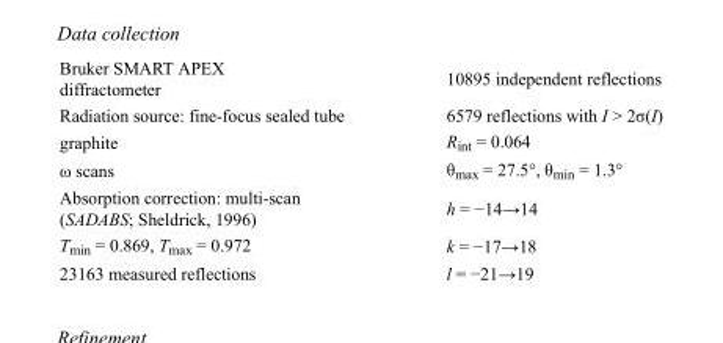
<table><tbody><tr><td>Bruker SMART APEX diffractometer</td><td>10895 independent reflections</td></tr><tr><td>Radiation source: fine-focus sealed tube</td><td>6579 reflections with I &gt; 2σ(I)</td></tr><tr><td>graphite</td><td>R<sub>int</sub> = 0.064</td></tr><tr><td>ω scans</td><td>θ<sub>max</sub> = 27.5°, θ<sub>min</sub> = 1.3°</td></tr><tr><td>Absorption correction: multi-scan (SADABS; Sheldrick, 1996)</td><td>h = −14→14</td></tr><tr><td>T<sub>min</sub> = 0.869, T<sub>max</sub> = 0.972</td><td>k = −17→18</td></tr><tr><td>23163 measured reflections</td><td>l = −21→19</td></tr></tbody></table>